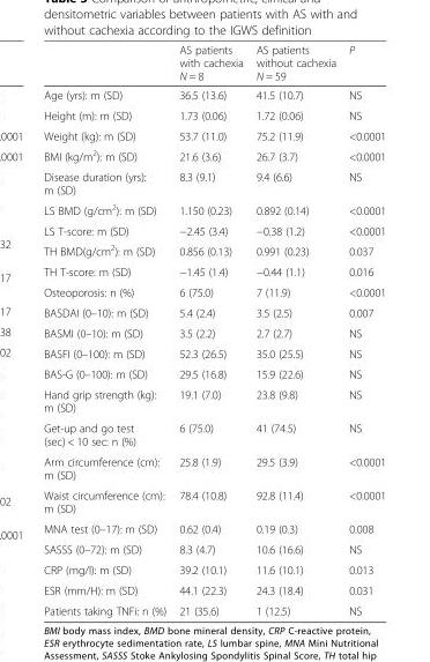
<table><thead><tr><td></td><td>AS patients with cachexia N = 8</td><td>AS patients without cachexia N = 59</td><td>P</td></tr></thead><tbody><tr><td>Age (yrs): m (SD)</td><td>36.5 (13.6)</td><td>41.5 (10.7)</td><td>NS</td></tr><tr><td>Height (m): m (SD)</td><td>1.73 (0.06)</td><td>1.72 (0.06)</td><td>NS</td></tr><tr><td>Weight (kg): m (SD)</td><td>53.7 (11.0)</td><td>75.2 (11.9)</td><td>&lt;0.0001</td></tr><tr><td>BMI (kg/m<sup>2</sup>): m (SD)</td><td>21.6 (3.6)</td><td>26.7 (3.7)</td><td>&lt;0.0001</td></tr><tr><td>Disease duration (yrs): m (SD)</td><td>8.3 (9.1)</td><td>9.4 (6.6)</td><td>NS</td></tr><tr><td>LS BMD (g/cm<sup>2</sup>): m (SD)</td><td>1.150 (0.23)</td><td>0.892 (0.14)</td><td>&lt;0.0001</td></tr><tr><td>LS T-score: m (SD)</td><td>−2.45 (3.4)</td><td>−0.38 (1.2)</td><td>&lt;0.0001</td></tr><tr><td>TH BMD(g/cm<sup>2</sup>): m (SD)</td><td>0.856 (0.13)</td><td>0.991 (0.23)</td><td>0.037</td></tr><tr><td>TH T-score: m (SD)</td><td>−1.45 (1.4)</td><td>−0.44 (1.1)</td><td>0.016</td></tr><tr><td>Osteoporosis: n (%)</td><td>6 (75.0)</td><td>7 (11.9)</td><td>&lt;0.0001</td></tr><tr><td>BASDAI (0–10): m (SD)</td><td>5.4 (2.4)</td><td>3.5 (2.5)</td><td>0.007</td></tr><tr><td>BASMI (0–10): m (SD)</td><td>3.5 (2.2)</td><td>2.7 (2.7)</td><td>NS</td></tr><tr><td>BASFI (0–100): m (SD)</td><td>52.3 (26.5)</td><td>35.0 (25.5)</td><td>NS</td></tr><tr><td>BAS-G (0–100): m (SD)</td><td>29.5 (16.8)</td><td>15.9 (22.6)</td><td>NS</td></tr><tr><td>Hand grip strength (kg): m (SD)</td><td>19.1 (7.0)</td><td>23.8 (9.8)</td><td>NS</td></tr><tr><td>Get-up and go test (sec) &lt; 10 sec: n (%)</td><td>6 (75.0)</td><td>41 (74.5)</td><td>NS</td></tr><tr><td>Arm circumference (cm): m (SD)</td><td>25.8 (1.9)</td><td>29.5 (3.9)</td><td>&lt;0.0001</td></tr><tr><td>Waist circumference (cm): m (SD)</td><td>78.4 (10.8)</td><td>92.8 (11.4)</td><td>&lt;0.0001</td></tr><tr><td>MNA test (0–17): m (SD)</td><td>0.62 (0.4)</td><td>0.19 (0.3)</td><td>0.008</td></tr><tr><td>SASSS (0–72): m (SD)</td><td>8.3 (4.7)</td><td>10.6 (16.6)</td><td>NS</td></tr><tr><td>CRP (mg/l): m (SD)</td><td>39.2 (10.1)</td><td>11.6 (10.1)</td><td>0.013</td></tr><tr><td>ESR (mm/H): m (SD)</td><td>44.1 (22.3)</td><td>24.3 (18.4)</td><td>0.031</td></tr><tr><td>Patients taking TNFi: n (%)</td><td>21 (35.6)</td><td>1 (12.5)</td><td>NS</td></tr></tbody></table>